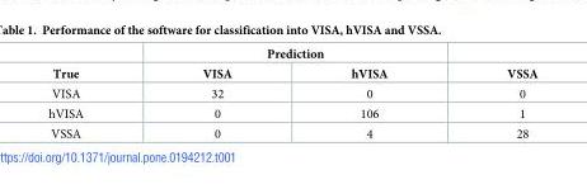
<table><thead><tr><td rowspan="2">True</td><td colspan="2">Prediction</td><td rowspan="2">VSSA</td></tr><tr><td>VISA</td><td>hVISA</td></tr></thead><tbody><tr><td>VISA</td><td>32</td><td>0</td><td>0</td></tr><tr><td>hVISA</td><td>0</td><td>106</td><td>1</td></tr><tr><td>VSSA</td><td>0</td><td>4</td><td>28</td></tr></tbody></table>